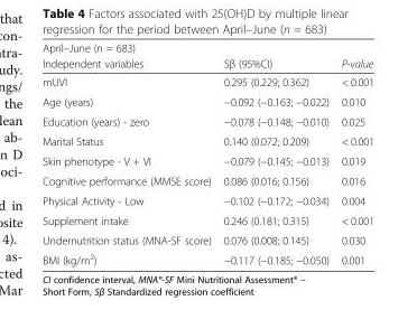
<table><thead><tr><td colspan="3">April–June (n = 683)</td></tr><tr><td>Independent variables</td><td>Sβ (95%CI)</td><td>P-value</td></tr></thead><tbody><tr><td>mUVI</td><td>0.295 (0.229; 0.362)</td><td>&lt; 0.001</td></tr><tr><td>Age (years)</td><td>−0.092 (−0.163; −0.022)</td><td>0.010</td></tr><tr><td>Education (years) - zero</td><td>−0.078 (−0.148; −0.010)</td><td>0.025</td></tr><tr><td>Marital Status</td><td>0.140 (0.072; 0.209)</td><td>&lt; 0.001</td></tr><tr><td>Skin phenotype - V + VI</td><td>−0.079 (−0.145; −0.013)</td><td>0.019</td></tr><tr><td>Cognitive performance (MMSE score)</td><td>0.086 (0.016; 0.156)</td><td>0.016</td></tr><tr><td>Physical Activity - Low</td><td>−0.102 (−0.172; −0.034)</td><td>0.004</td></tr><tr><td>Supplement intake</td><td>0.246 (0.181; 0.315)</td><td>&lt; 0.001</td></tr><tr><td>Undernutrition status (MNA-SF score)</td><td>0.076 (0.008; 0.145)</td><td>0.030</td></tr><tr><td>BMI (kg/m<sup>2</sup>)</td><td>−0.117 (−0.185; −0.050)</td><td>0.001</td></tr></tbody></table>